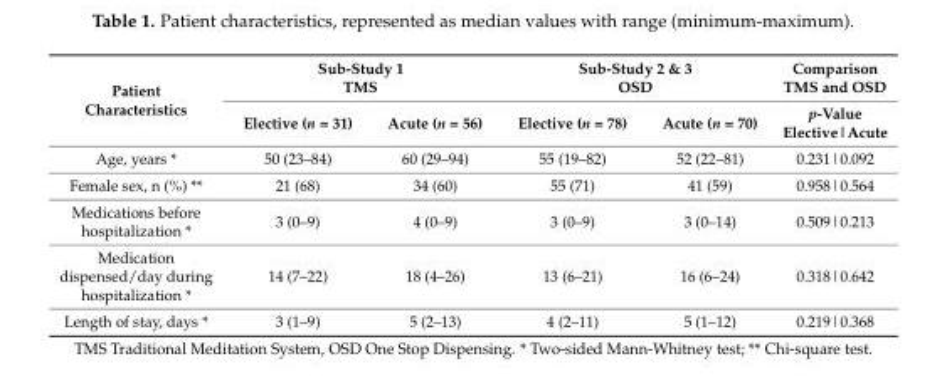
<table><thead><tr><td rowspan="2">Patient Characteristics</td><td colspan="2">Sub-Study 1 TMS</td><td colspan="2">Sub-Study 2 &amp; 3 OSD</td><td rowspan="2">Comparison TMS and OSD p-Value Elective|Acute</td></tr><tr><td>Elective (n = 31)</td><td>Acute (n = 56)</td><td>Elective (n = 78)</td><td>Acute (n = 70)</td></tr></thead><tbody><tr><td>Age, years *</td><td>50 (23–84)</td><td>60 (29–94)</td><td>55 (19–82)</td><td>52 (22–81)</td><td>0.231|0.092</td></tr><tr><td>Female sex, n (%) **</td><td>21 (68)</td><td>34 (60)</td><td>55 (71)</td><td>41 (59)</td><td>0.958|0.564</td></tr><tr><td>Medications before hospitalization *</td><td>3 (0–9)</td><td>4 (0–9)</td><td>3 (0–9)</td><td>3 (0–14)</td><td>0.509|0.213</td></tr><tr><td>Medication dispensed/day during hospitalization *</td><td>14 (7–22)</td><td>18 (4–26)</td><td>13 (6–21)</td><td>16 (6–24)</td><td>0.318|0.642</td></tr><tr><td>Length of stay, days *</td><td>3 (1–9)</td><td>5 (2–13)</td><td>4 (2–11)</td><td>5 (1–12)</td><td>0.219|0.368</td></tr></tbody></table>